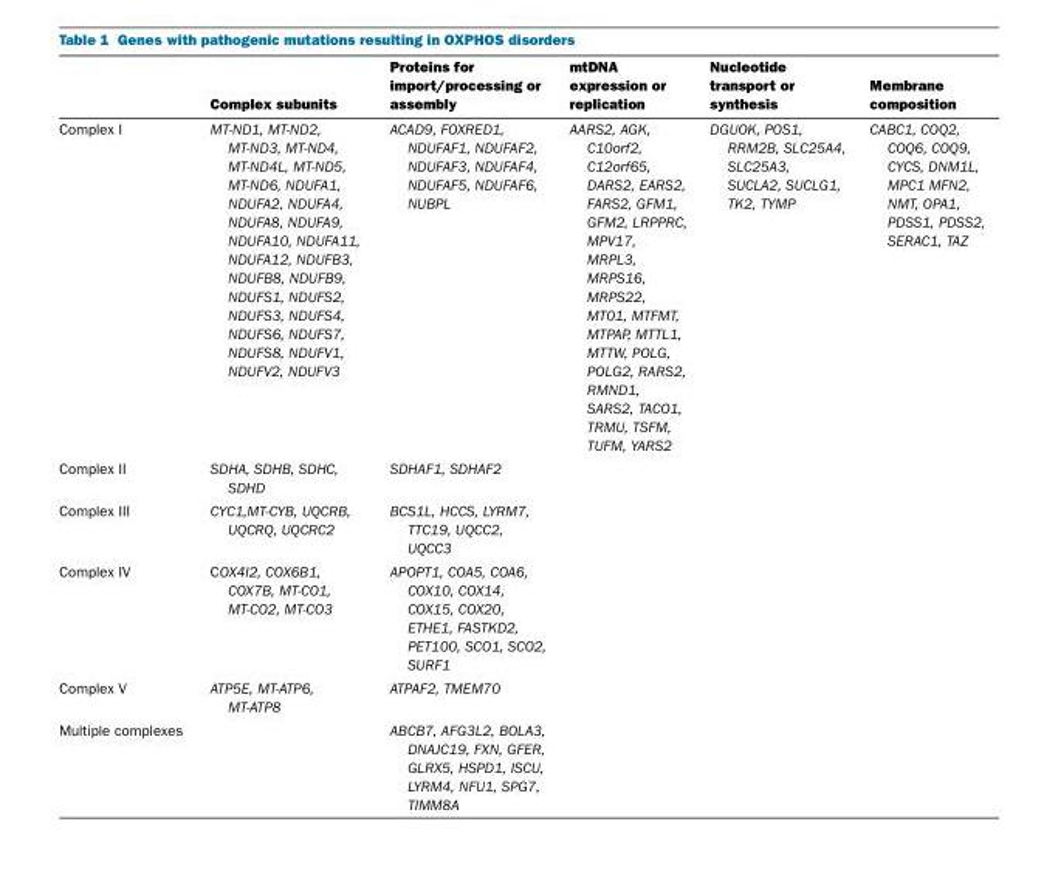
<table><thead><tr><td></td><td>Complex subunits</td><td>Proteins for import/processing or assembly</td><td>mtDNA expression or replication</td><td>Nucleotide transport or synthesis</td><td>Membrane composition</td></tr></thead><tbody><tr><td>Complex I</td><td>MT-ND1, MT-ND2, MT-ND3, MT-ND4, MT-ND4L, MT-ND5, MT-ND6, NDUFA1, NDUFA2, NDUFA4, NDUFA8, NDUFA9, NDUFA10, NDUFA11, NDUFA12, NDUFB3, NDUFB8, NDUFB9, NDUFS1, NDUFS2, NDUFS3, NDUFS4, NDUFS6, NDUFS7, NDUFS8, NDUFV1, NDUFV2, NDUFV3</td><td>ACAD9, FOXRED1, NDUFAF1, NDUFAF2, NDUFAF3, NDUFAF4, NDUFAF5, NDUFAF6, NUBPL</td><td>AARS2, AGK, C10orf2, C12orf65, DARS2, EARS2, FARS2, GFM1, GFM2, LRPPRC, MPV17, MRPL3, MRPS16, MRPS22, MT01, MTFMT, MTPAP, MTTL1, MTTW, POLG, POLG2, RARS2, RMND1, SARS2, TACO1, TRMU, TSFM, TUFM, YARS2</td><td>DGUOK, POS1, RRM2B, SLC25A4, SLC25A3, SUCLA2, SUCLG1, TK2, TYMP</td><td>CABC1, COQ2, COQ6, COQ9, CYCS, DNM1L, MPC1 MFN2, NMT, OPA1, PDSS1, PDSS2, SERAC1, TAZ</td></tr><tr><td>Complex II</td><td>SDHA, SDHB, SDHC, SDHD</td><td>SDHAF1, SDHAF2</td><td></td><td></td><td></td></tr><tr><td>Complex III</td><td>CYC1,MT-CYB, UQCRB, UQCRQ, UQCRC2</td><td>BCS1L, HCCS, LYRM7, TTC19, UQCC2, UQCC3</td><td></td><td></td><td></td></tr><tr><td>Complex IV</td><td>COX4I2, COX6B1, COX7B, MT-CO1, MT-CO2, MT-CO3</td><td>APOPT1, COA5, COA6, COX10, COX14, COX15, COX20, ETHE1, FASTKD2, PET100, SCO1, SCO2, SURF1</td><td></td><td></td><td></td></tr><tr><td>Complex V</td><td>ATP5E, MT-ATP6, MT-ATP8</td><td>ATPAF2, TMEM70</td><td></td><td></td><td></td></tr><tr><td>Multiple complexes</td><td></td><td>ABCB7, AFG3L2, BOLA3, DNAJC19, FXN, GFER, GLRX5, HSPD1, ISCU, LYRM4, NFU1, SPG7, TIMM8A</td><td></td><td></td><td></td></tr></tbody></table>